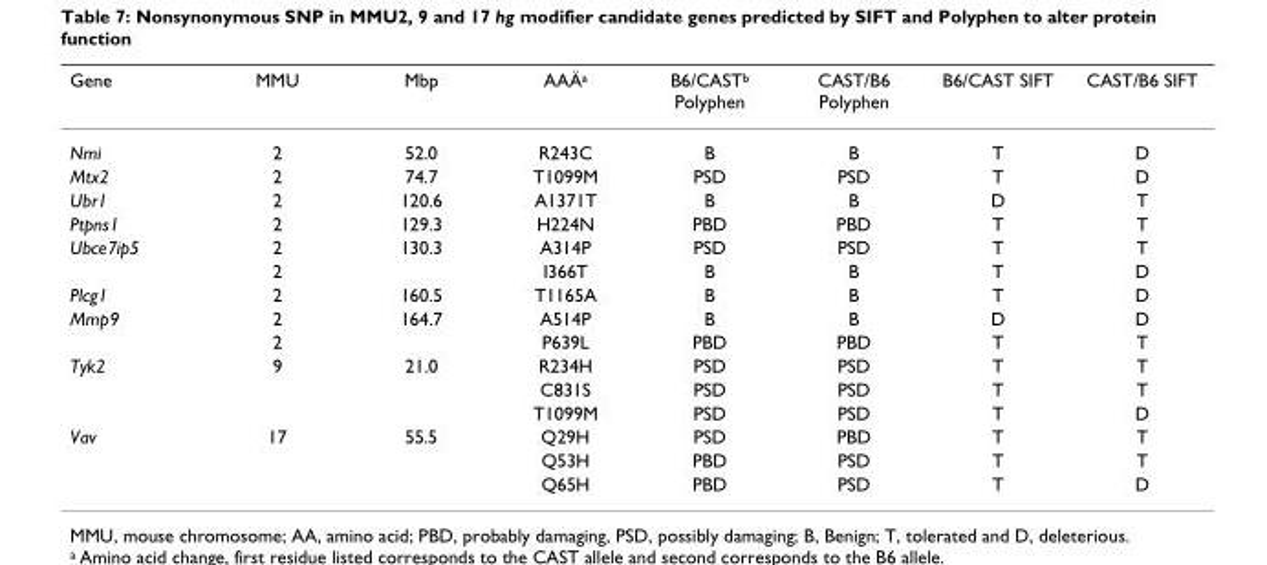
<table><thead><tr><td>Gene</td><td>MMU</td><td>Mbp</td><td>AAÄa</td><td>B6/CASTb Polyphen</td><td>CAST/B6 Polyphen</td><td>B6/CAST SIFT</td><td>CAST/B6 SIFT</td></tr></thead><tbody><tr><td>Nmi</td><td>2</td><td>52.0</td><td>R243C</td><td>B</td><td>B</td><td>T</td><td>D</td></tr><tr><td>Mtx2</td><td>2</td><td>74.7</td><td>T1099M</td><td>PSD</td><td>PSD</td><td>T</td><td>D</td></tr><tr><td>Ubr1</td><td>2</td><td>120.6</td><td>A1371T</td><td>B</td><td>B</td><td>D</td><td>T</td></tr><tr><td>Ptpns1</td><td>2</td><td>129.3</td><td>H224N</td><td>PBD</td><td>PBD</td><td>T</td><td>T</td></tr><tr><td rowspan="2">Ubce7ip5</td><td>2</td><td>130.3</td><td>A314P</td><td>PSD</td><td>PSD</td><td>T</td><td>T</td></tr><tr><td>2</td><td></td><td>I366T</td><td>B</td><td>B</td><td>T</td><td>D</td></tr><tr><td>Plcg1</td><td>2</td><td>160.5</td><td>T1165A</td><td>B</td><td>B</td><td>T</td><td>D</td></tr><tr><td rowspan="2">Mmp9</td><td>2</td><td>164.7</td><td>A514P</td><td>B</td><td>B</td><td>D</td><td>D</td></tr><tr><td>2</td><td></td><td>P639L</td><td>PBD</td><td>PBD</td><td>T</td><td>T</td></tr><tr><td rowspan="3">Tyk2</td><td>9</td><td>21.0</td><td>R234H</td><td>PSD</td><td>PSD</td><td>T</td><td>T</td></tr><tr><td></td><td></td><td>C831S</td><td>PSD</td><td>PSD</td><td>T</td><td>T</td></tr><tr><td></td><td></td><td>T1099M</td><td>PSD</td><td>PSD</td><td>T</td><td>D</td></tr><tr><td rowspan="3">Vav</td><td>17</td><td>55.5</td><td>Q29H</td><td>PSD</td><td>PBD</td><td>T</td><td>T</td></tr><tr><td></td><td></td><td>Q53H</td><td>PBD</td><td>PSD</td><td>T</td><td>T</td></tr><tr><td></td><td></td><td>Q65H</td><td>PBD</td><td>PSD</td><td>T</td><td>D</td></tr></tbody></table>